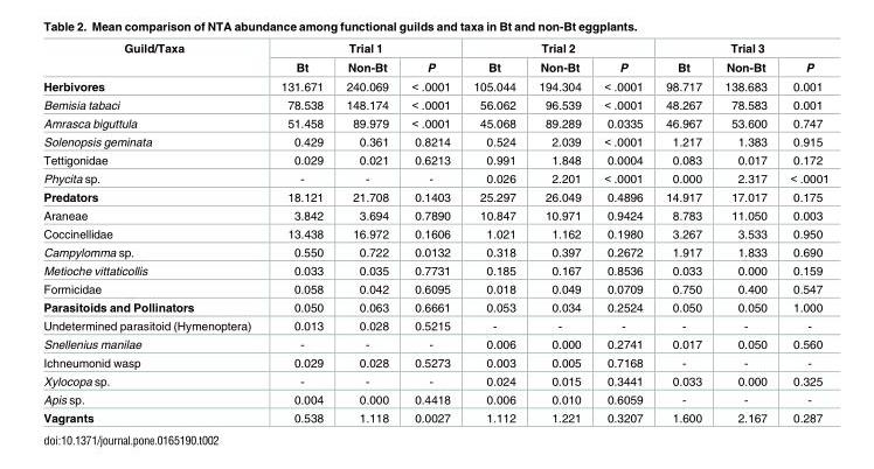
<table><thead><tr><td rowspan="2">Guild/Taxa</td><td colspan="3">Trial 1</td><td colspan="3">Trial 2</td><td colspan="3">Trial 3</td></tr><tr><td>Bt</td><td>Non-Bt</td><td>P</td><td>Bt</td><td>Non-Bt</td><td>P</td><td>Bt</td><td>Non-Bt</td><td>P</td></tr></thead><tbody><tr><td>Herbivores</td><td>131.671</td><td>240.069</td><td>&lt; .0001</td><td>105.044</td><td>194.304</td><td>&lt; .0001</td><td>98.717</td><td>138.683</td><td>0.001</td></tr><tr><td>Bemisia tabaci</td><td>78.538</td><td>148.174</td><td>&lt; .0001</td><td>56.062</td><td>96.539</td><td>&lt; .0001</td><td>48.267</td><td>78.583</td><td>0.001</td></tr><tr><td>Amrasca biguttula</td><td>51.458</td><td>89.979</td><td>&lt; .0001</td><td>45.068</td><td>89.289</td><td>0.0335</td><td>46.967</td><td>53.600</td><td>0.747</td></tr><tr><td>Solenopsis geminata</td><td>0.429</td><td>0.361</td><td>0.8214</td><td>0.524</td><td>2.039</td><td>&lt; .0001</td><td>1.217</td><td>1.383</td><td>0.915</td></tr><tr><td>Tettigonidae</td><td>0.029</td><td>0.021</td><td>0.6213</td><td>0.991</td><td>1.848</td><td>0.0004</td><td>0.083</td><td>0.017</td><td>0.172</td></tr><tr><td>Phycita sp.</td><td>-</td><td>-</td><td>-</td><td>0.026</td><td>2.201</td><td>&lt; .0001</td><td>0.000</td><td>2.317</td><td>&lt; .0001</td></tr><tr><td>Predators</td><td>18.121</td><td>21.708</td><td>0.1403</td><td>25.297</td><td>26.049</td><td>0.4896</td><td>14.917</td><td>17.017</td><td>0.175</td></tr><tr><td>Araneae</td><td>3.842</td><td>3.694</td><td>0.7890</td><td>10.847</td><td>10.971</td><td>0.9424</td><td>8.783</td><td>11.050</td><td>0.003</td></tr><tr><td>Coccinellidae</td><td>13.438</td><td>16.972</td><td>0.1606</td><td>1.021</td><td>1.162</td><td>0.1980</td><td>3.267</td><td>3.533</td><td>0.950</td></tr><tr><td>Campylomma sp.</td><td>0.550</td><td>0.722</td><td>0.0132</td><td>0.318</td><td>0.397</td><td>0.2672</td><td>1.917</td><td>1.833</td><td>0.690</td></tr><tr><td>Metioche vittaticollis</td><td>0.033</td><td>0.035</td><td>0.7731</td><td>0.185</td><td>0.167</td><td>0.8536</td><td>0.033</td><td>0.000</td><td>0.159</td></tr><tr><td>Formicidae</td><td>0.058</td><td>0.042</td><td>0.6095</td><td>0.018</td><td>0.049</td><td>0.0709</td><td>0.750</td><td>0.400</td><td>0.547</td></tr><tr><td>Parasitoids and Pollinators</td><td>0.050</td><td>0.063</td><td>0.6661</td><td>0.053</td><td>0.034</td><td>0.2524</td><td>0.050</td><td>0.050</td><td>1.000</td></tr><tr><td>Undetermined parasitoid (Hymenoptera)</td><td>0.013</td><td>0.028</td><td>0.5215</td><td>-</td><td>-</td><td>-</td><td>-</td><td>-</td><td>-</td></tr><tr><td>Snellenius manilae</td><td>-</td><td>-</td><td>-</td><td>0.006</td><td>0.000</td><td>0.2741</td><td>0.017</td><td>0.050</td><td>0.560</td></tr><tr><td>Ichneumonid wasp</td><td>0.029</td><td>0.028</td><td>0.5273</td><td>0.003</td><td>0.005</td><td>0.7168</td><td>-</td><td>-</td><td>-</td></tr><tr><td>Xylocopa sp.</td><td>-</td><td>-</td><td>-</td><td>0.024</td><td>0.015</td><td>0.3441</td><td>0.033</td><td>0.000</td><td>0.325</td></tr><tr><td>Apis sp.</td><td>0.004</td><td>0.000</td><td>0.4418</td><td>0.006</td><td>0.010</td><td>0.6059</td><td>-</td><td>-</td><td>-</td></tr><tr><td>Vagrants</td><td>0.538</td><td>1.118</td><td>0.0027</td><td>1.112</td><td>1.221</td><td>0.3207</td><td>1.600</td><td>2.167</td><td>0.287</td></tr></tbody></table>